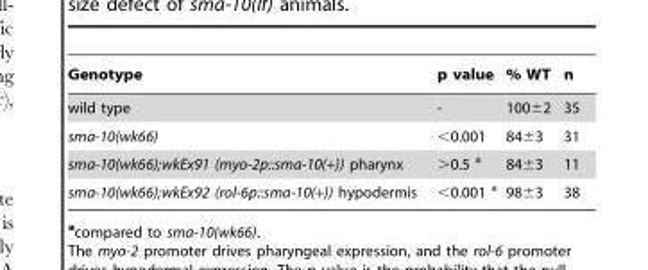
<table><thead><tr><td>Genotype</td><td>p value</td><td>% WT</td><td>n</td></tr></thead><tbody><tr><td>wild type</td><td>-</td><td>100±2</td><td>35</td></tr><tr><td>sma-10(wk66)</td><td>&lt;0.001</td><td>84±3</td><td>31</td></tr><tr><td>sma-10(wk66);wkEx91 (myo-2p::sma-10(+)) pharynx</td><td>&gt;0.5 a</td><td>84±3</td><td>11</td></tr><tr><td>sma-10(wk66);wkEx92 (rol-6p::sma-10(+)) hypodermis</td><td>&lt;0.001 a</td><td>98±3</td><td>38</td></tr></tbody></table>